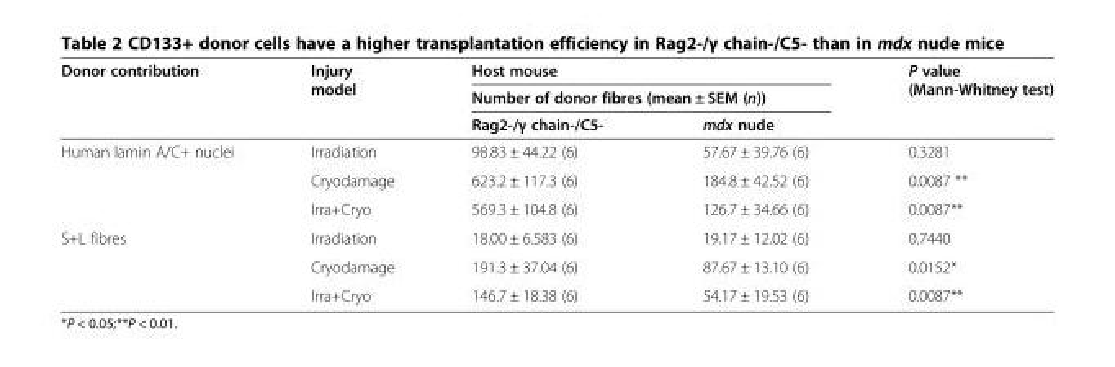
<table><thead><tr><td rowspan="3">Donor contribution</td><td rowspan="3">Injury model</td><td rowspan="2" colspan="2">Host mouse Number of donor fibres (mean ± SEM (n))</td><td rowspan="3">P value (Mann-Whitney test)</td></tr><tr></tr><tr><td>Rag2-/γ chain-/C5-</td><td>mdx nude</td></tr></thead><tbody><tr><td rowspan="3">Human lamin A/C+ nuclei</td><td>Irradiation</td><td>98.83 ± 44.22 (6)</td><td>57.67 ± 39.76 (6)</td><td>0.3281</td></tr><tr><td>Cryodamage</td><td>623.2 ± 117.3 (6)</td><td>184.8 ± 42.52 (6)</td><td>0.0087 **</td></tr><tr><td>Irra+Cryo</td><td>569.3 ± 104.8 (6)</td><td>126.7 ± 34.66 (6)</td><td>0.0087**</td></tr><tr><td rowspan="3">S+L fibres</td><td>Irradiation</td><td>18.00 ± 6.583 (6)</td><td>19.17 ± 12.02 (6)</td><td>0.7440</td></tr><tr><td>Cryodamage</td><td>191.3 ± 37.04 (6)</td><td>87.67 ± 13.10 (6)</td><td>0.0152*</td></tr><tr><td>Irra+Cryo</td><td>146.7 ± 18.38 (6)</td><td>54.17 ± 19.53 (6)</td><td>0.0087**</td></tr></tbody></table>